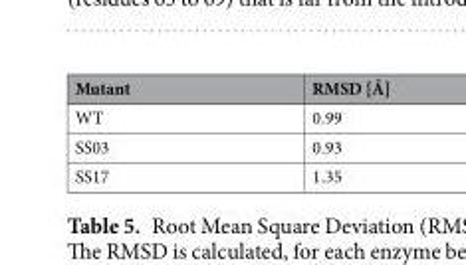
<table><thead><tr><td>Mutant</td><td>RMSD [Å]</td></tr></thead><tbody><tr><td>WT</td><td>0.99</td></tr><tr><td>SS03</td><td>0.93</td></tr><tr><td>SS17</td><td>1.35</td></tr></tbody></table>